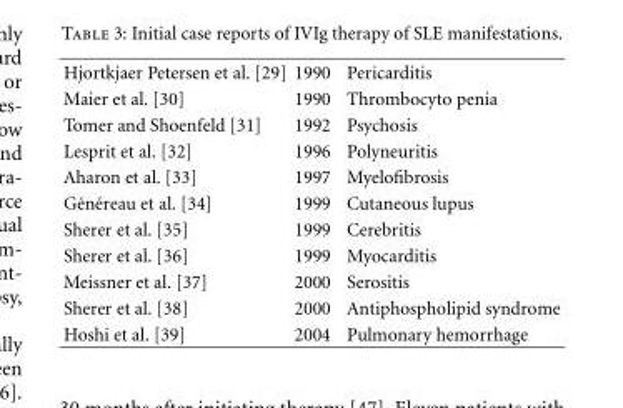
<table><tbody><tr><td>Hjortkjaer Petersen et al. [29]</td><td>1990</td><td>Pericarditis</td></tr><tr><td>Maier et al. [30]</td><td>1990</td><td>Thrombocyto penia</td></tr><tr><td>Tomer and Shoenfeld [31]</td><td>1992</td><td>Psychosis</td></tr><tr><td>Lesprit et al. [32]</td><td>1996</td><td>Polyneuritis</td></tr><tr><td>Aharon et al. [33]</td><td>1997</td><td>Myelofibrosis</td></tr><tr><td>G´en´ereau et al. [34]</td><td>1999</td><td>Cutaneous lupus</td></tr><tr><td>Sherer et al. [35]</td><td>1999</td><td>Cerebritis</td></tr><tr><td>Sherer et al. [36]</td><td>1999</td><td>Myocarditis</td></tr><tr><td>Meissner et al. [37]</td><td>2000</td><td>Serositis</td></tr><tr><td>Sherer et al. [38]</td><td>2000</td><td>Antiphospholipid syndrome</td></tr><tr><td>Hoshi et al. [39]</td><td>2004</td><td>Pulmonary hemorrhage</td></tr></tbody></table>